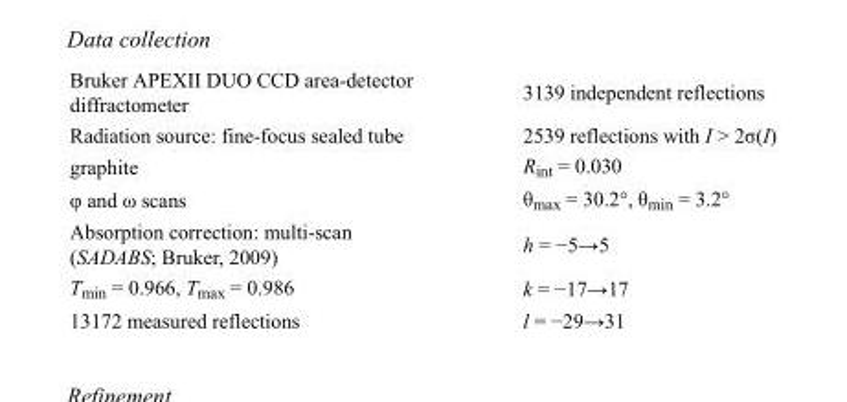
<table><tbody><tr><td>Bruker APEXII DUO CCD area-detector diffractometer</td><td>3139 independent reflections</td></tr><tr><td>Radiation source: fine-focus sealed tube</td><td>2539 reflections with I &gt; 2σ(I)</td></tr><tr><td>graphite</td><td>R<sub>int</sub> = 0.030</td></tr><tr><td>φ and ω scans</td><td>θ<sub>max</sub> = 30.2°, θ<sub>min</sub> = 3.2°</td></tr><tr><td>Absorption correction: multi-scan (SADABS; Bruker, 2009)</td><td>h = −5→5</td></tr><tr><td>T<sub>min</sub> = 0.966, T<sub>max</sub> = 0.986</td><td>k = −17→17</td></tr><tr><td>13172 measured reflections</td><td>l = −29→31</td></tr></tbody></table>